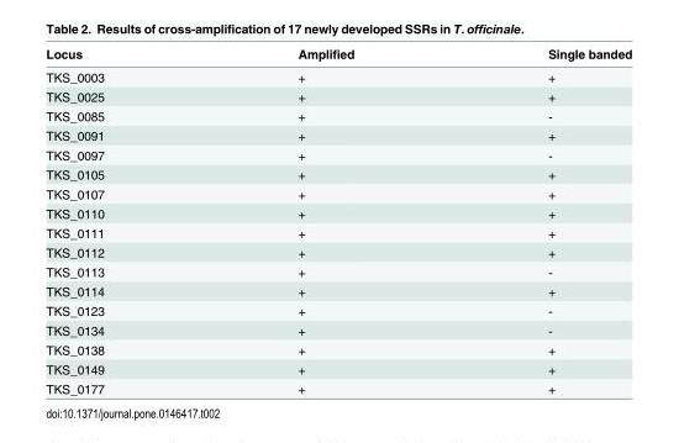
<table><thead><tr><td>Locus</td><td>Amplified</td><td>Single banded</td></tr></thead><tbody><tr><td>TKS_0003</td><td>+</td><td>+</td></tr><tr><td>TKS_0025</td><td>+</td><td>+</td></tr><tr><td>TKS_0085</td><td>+</td><td>-</td></tr><tr><td>TKS_0091</td><td>+</td><td>+</td></tr><tr><td>TKS_0097</td><td>+</td><td>-</td></tr><tr><td>TKS_0105</td><td>+</td><td>+</td></tr><tr><td>TKS_0107</td><td>+</td><td>+</td></tr><tr><td>TKS_0110</td><td>+</td><td>+</td></tr><tr><td>TKS_0111</td><td>+</td><td>+</td></tr><tr><td>TKS_0112</td><td>+</td><td>+</td></tr><tr><td>TKS_0113</td><td>+</td><td>-</td></tr><tr><td>TKS_0114</td><td>+</td><td>+</td></tr><tr><td>TKS_0123</td><td>+</td><td>-</td></tr><tr><td>TKS_0134</td><td>+</td><td>-</td></tr><tr><td>TKS_0138</td><td>+</td><td>+</td></tr><tr><td>TKS_0149</td><td>+</td><td>+</td></tr><tr><td>TKS_0177</td><td>+</td><td>+</td></tr></tbody></table>